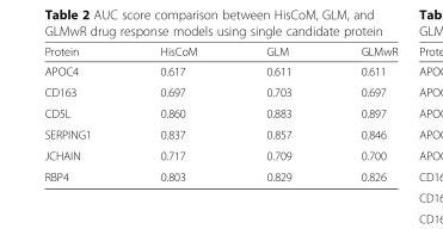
<table><thead><tr><td>Protein</td><td>HisCoM</td><td>GLM</td><td>GLMwR</td></tr></thead><tbody><tr><td>APOC4</td><td>0.617</td><td>0.611</td><td>0.611</td></tr><tr><td>CD163</td><td>0.697</td><td>0.703</td><td>0.697</td></tr><tr><td>CD5L</td><td>0.860</td><td>0.883</td><td>0.897</td></tr><tr><td>SERPING1</td><td>0.837</td><td>0.857</td><td>0.846</td></tr><tr><td>JCHAIN</td><td>0.717</td><td>0.709</td><td>0.700</td></tr><tr><td>RBP4</td><td>0.803</td><td>0.829</td><td>0.826</td></tr></tbody></table>